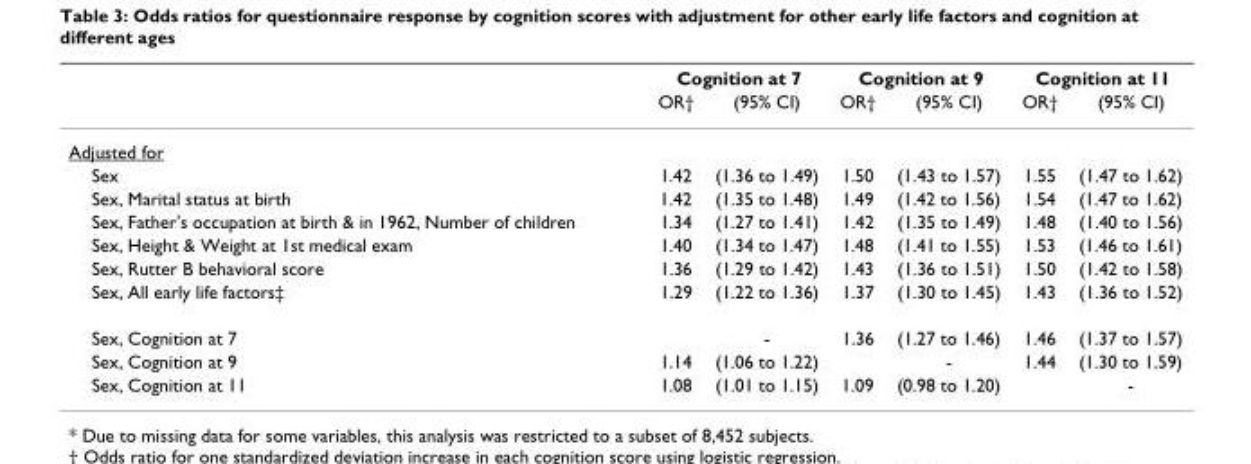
<table><thead><tr><td rowspan="2"></td><td colspan="2">Cognition at 7</td><td colspan="2">Cognition at 9</td><td colspan="2">Cognition at 11</td></tr><tr><td>OR†</td><td>(95% CI)</td><td>OR†</td><td>(95% CI)</td><td>OR†</td><td>(95% CI)</td></tr></thead><tbody><tr><td colspan="7">Adjusted for</td></tr><tr><td>Sex</td><td>1.42</td><td>(1.36 to 1.49)</td><td>1.50</td><td>(1.43 to 1.57)</td><td>1.55</td><td>(1.47 to 1.62)</td></tr><tr><td>Sex, Marital status at birth</td><td>1.42</td><td>(1.35 to 1.48)</td><td>1.49</td><td>(1.42 to 1.56)</td><td>1.54</td><td>(1.47 to 1.62)</td></tr><tr><td>Sex, Father&#x27;s occupation at birth &amp; in 1962, Number of children</td><td>1.34</td><td>(1.27 to 1.41)</td><td>1.42</td><td>(1.35 to 1.49)</td><td>1.48</td><td>(1.40 to 1.56)</td></tr><tr><td>Sex, Height &amp; Weight at 1st medical exam</td><td>1.40</td><td>(1.34 to 1.47)</td><td>1.48</td><td>(1.41 to 1.55)</td><td>1.53</td><td>(1.46 to 1.61)</td></tr><tr><td>Sex, Rutter B behavioral score</td><td>1.36</td><td>(1.29 to 1.42)</td><td>1.43</td><td>(1.36 to 1.51)</td><td>1.50</td><td>(1.42 to 1.58)</td></tr><tr><td>Sex, All early life factors‡</td><td>1.29</td><td>(1.22 to 1.36)</td><td>1.37</td><td>(1.30 to 1.45)</td><td>1.43</td><td>(1.36 to 1.52)</td></tr><tr><td>Sex, Cognition at 7</td><td></td><td>-</td><td>1.36</td><td>(1.27 to 1.46)</td><td>1.46</td><td>(1.37 to 1.57)</td></tr><tr><td>Sex, Cognition at 9</td><td>1.14</td><td>(1.06 to 1.22)</td><td></td><td>-</td><td>1.44</td><td>(1.30 to 1.59)</td></tr><tr><td>Sex, Cognition at 11</td><td>1.08</td><td>(1.01 to 1.15)</td><td>1.09</td><td>(0.98 to 1.20)</td><td></td><td>-</td></tr></tbody></table>